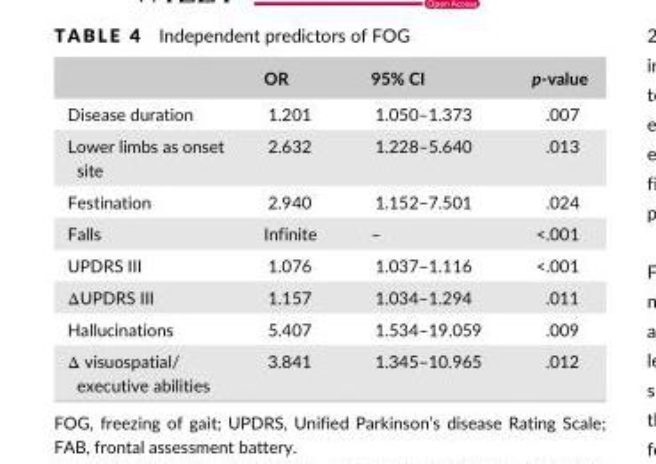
<table><thead><tr><td></td><td>OR</td><td>95% CI</td><td>p- value</td></tr></thead><tbody><tr><td>Disease duration</td><td>1.201</td><td>1.050–1.373</td><td>.007</td></tr><tr><td>Lower limbs as onset site</td><td>2.632</td><td>1.228–5.640</td><td>.013</td></tr><tr><td>Festination</td><td>2.940</td><td>1.152–7.501</td><td>.024</td></tr><tr><td>Falls</td><td>Infinite</td><td>–</td><td>&lt;.001</td></tr><tr><td>UPDRS III</td><td>1.076</td><td>1.037–1.116</td><td>&lt;.001</td></tr><tr><td>ΔUPDRS III</td><td>1.157</td><td>1.034–1.294</td><td>.011</td></tr><tr><td>Hallucinations</td><td>5.407</td><td>1.534–19.059</td><td>.009</td></tr><tr><td>Δ visuospatial/ executive abilities</td><td>3.841</td><td>1.345–10.965</td><td>.012</td></tr></tbody></table>